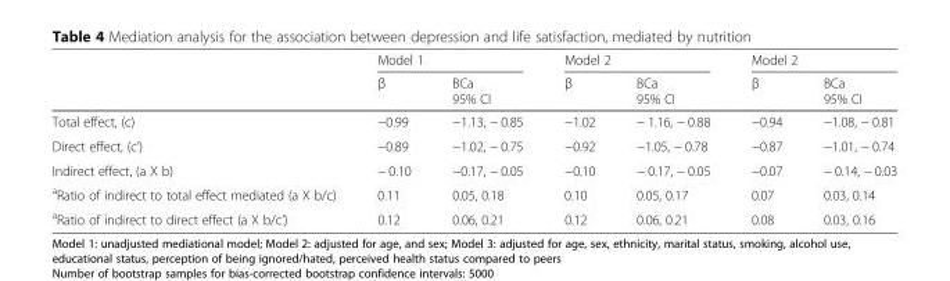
<table><thead><tr><td rowspan="2"></td><td colspan="2">Model 1</td><td colspan="2">Model 2</td><td colspan="2">Model 2</td></tr><tr><td>β</td><td>BCa 95% CI</td><td>β</td><td>BCa 95% CI</td><td>β</td><td>BCa 95% CI</td></tr></thead><tbody><tr><td>Total effect, (c)</td><td>−0.99</td><td>−1.13, − 0.85</td><td>−1.02</td><td>− 1.16, − 0.88</td><td>−0.94</td><td>−1.08, − 0.81</td></tr><tr><td>Direct effect, (c’)</td><td>−0.89</td><td>−1.02, − 0.75</td><td>−0.92</td><td>−1.05, − 0.78</td><td>−0.87</td><td>−1.01, − 0.74</td></tr><tr><td>Indirect effect, (a X b)</td><td>− 0.10</td><td>−0.17, − 0.05</td><td>−0.10</td><td>− 0.17, − 0.05</td><td>−0.07</td><td>− 0.14, − 0.03</td></tr><tr><td><sup>a</sup>Ratio of indirect to total effect mediated (a X b/c)</td><td>0.11</td><td>0.05, 0.18</td><td>0.10</td><td>0.05, 0.17</td><td>0.07</td><td>0.03, 0.14</td></tr><tr><td><sup>a</sup>Ratio of indirect to direct effect (a X b/c’)</td><td>0.12</td><td>0.06, 0.21</td><td>0.12</td><td>0.06, 0.21</td><td>0.08</td><td>0.03, 0.16</td></tr></tbody></table>